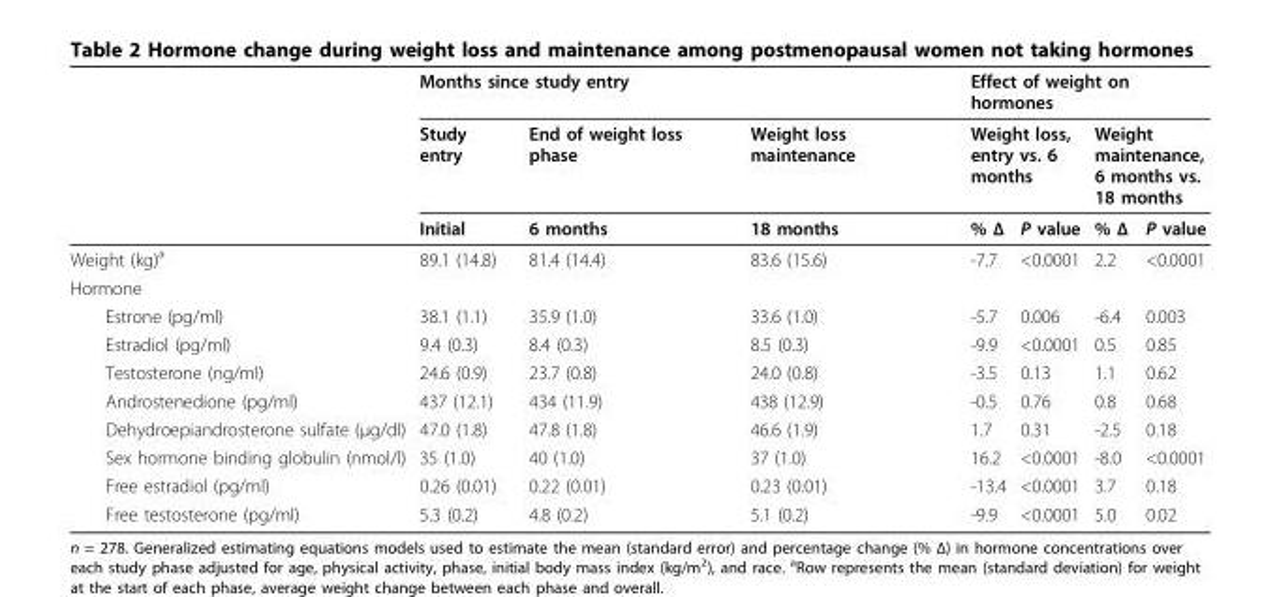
<table><thead><tr><td rowspan="3"></td><td colspan="3">Months since study entry</td><td colspan="4">Effect of weight on hormones</td></tr><tr><td rowspan="2">Study entry Initial</td><td rowspan="2">End of weight loss phase 6 months</td><td rowspan="2">Weight loss maintenance 18 months</td><td colspan="2">Weight loss, entry vs. 6 months</td><td colspan="2">Weight maintenance, 6 months vs. 18 months</td></tr><tr><td>% Δ</td><td>P value</td><td>% Δ</td><td>P value</td></tr></thead><tbody><tr><td>Weight (kg)<sup>a</sup></td><td>89.1 (14.8)</td><td>81.4 (14.4)</td><td>83.6 (15.6)</td><td>-7.7</td><td>&lt;0.0001</td><td>2.2</td><td>&lt;0.0001</td></tr><tr><td colspan="8">Hormone</td></tr><tr><td>Estrone (pg/ml)</td><td>38.1 (1.1)</td><td>35.9 (1.0)</td><td>33.6 (1.0)</td><td>-5.7</td><td>0.006</td><td>-6.4</td><td>0.003</td></tr><tr><td>Estradiol (pg/ml)</td><td>9.4 (0.3)</td><td>8.4 (0.3)</td><td>8.5 (0.3)</td><td>-9.9</td><td>&lt;0.0001</td><td>0.5</td><td>0.85</td></tr><tr><td>Testosterone (ng/ml)</td><td>24.6 (0.9)</td><td>23.7 (0.8)</td><td>24.0 (0.8)</td><td>-3.5</td><td>0.13</td><td>1.1</td><td>0.62</td></tr><tr><td>Androstenedione (pg/ml)</td><td>437 (12.1)</td><td>434 (11.9)</td><td>438 (12.9)</td><td>-0.5</td><td>0.76</td><td>0.8</td><td>0.68</td></tr><tr><td>Dehydroepiandrosterone sulfate (µg/dl)</td><td>47.0 (1.8)</td><td>47.8 (1.8)</td><td>46.6 (1.9)</td><td>1.7</td><td>0.31</td><td>-2.5</td><td>0.18</td></tr><tr><td>Sex hormone binding globulin (nmol/l)</td><td>35 (1.0)</td><td>40 (1.0)</td><td>37 (1.0)</td><td>16.2</td><td>&lt;0.0001</td><td>-8.0</td><td>&lt;0.0001</td></tr><tr><td>Free estradiol (pg/ml)</td><td>0.26 (0.01)</td><td>0.22 (0.01)</td><td>0.23 (0.01)</td><td>-13.4</td><td>&lt;0.0001</td><td>3.7</td><td>0.18</td></tr><tr><td>Free testosterone (pg/ml)</td><td>5.3 (0.2)</td><td>4.8 (0.2)</td><td>5.1 (0.2)</td><td>-9.9</td><td>&lt;0.0001</td><td>5.0</td><td>0.02</td></tr></tbody></table>